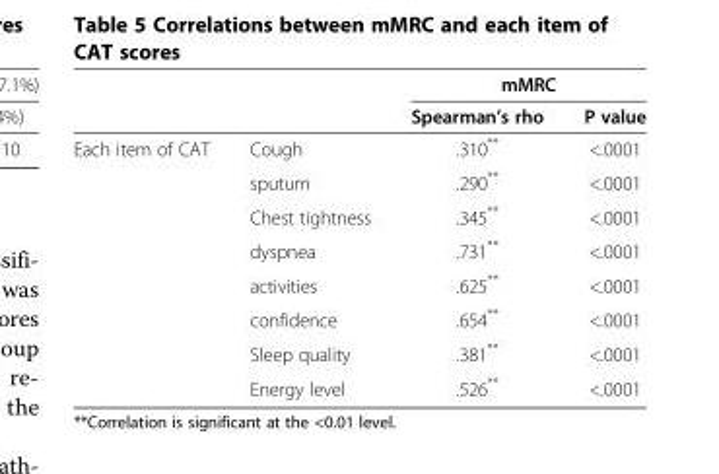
<table><thead><tr><td rowspan="2"></td><td rowspan="2"></td><td colspan="2">mMRC</td></tr><tr><td>Spearman’s rho</td><td>P value</td></tr></thead><tbody><tr><td rowspan="8">Each item of CAT</td><td>Cough</td><td>.310**</td><td>&lt;.0001</td></tr><tr><td>sputum</td><td>.290**</td><td>&lt;.0001</td></tr><tr><td>Chest tightness</td><td>.345**</td><td>&lt;.0001</td></tr><tr><td>dyspnea</td><td>.731**</td><td>&lt;.0001</td></tr><tr><td>activities</td><td>.625**</td><td>&lt;.0001</td></tr><tr><td>confidence</td><td>.654**</td><td>&lt;.0001</td></tr><tr><td>Sleep quality</td><td>.381**</td><td>&lt;.0001</td></tr><tr><td>Energy level</td><td>.526**</td><td>&lt;.0001</td></tr></tbody></table>